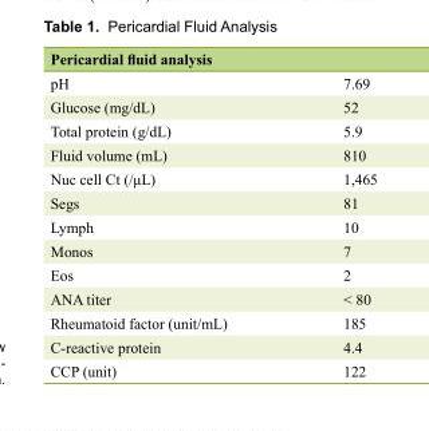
<table><thead><tr><td>Pericardial fluid analysis</td><td></td></tr></thead><tbody><tr><td>pH</td><td>7.69</td></tr><tr><td>Glucose (mg/dL)</td><td>52</td></tr><tr><td>Total protein (g/dL)</td><td>5.9</td></tr><tr><td>Fluid volume (mL)</td><td>810</td></tr><tr><td>Nuc cell Ct (/μL)</td><td>1,465</td></tr><tr><td>Segs</td><td>81</td></tr><tr><td>Lymph</td><td>10</td></tr><tr><td>Monos</td><td>7</td></tr><tr><td>Eos</td><td>2</td></tr><tr><td>ANA titer</td><td>&lt; 80</td></tr><tr><td>Rheumatoid factor (unit/mL)</td><td>185</td></tr><tr><td>C-reactive protein</td><td>4.4</td></tr><tr><td>CCP (unit)</td><td>122</td></tr></tbody></table>